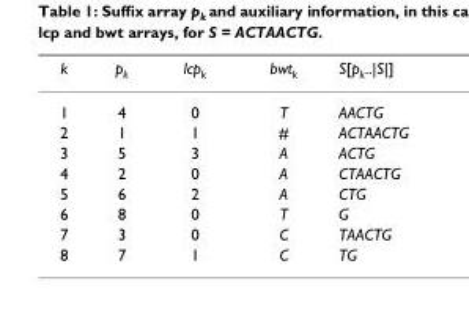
<table><thead><tr><td>k</td><td>p<sub>k</sub></td><td>lcp<sub>k</sub></td><td>bwt<sub>k</sub></td><td>S[p<sub>k</sub>..|S|]</td></tr></thead><tbody><tr><td>1</td><td>4</td><td>0</td><td>T</td><td>AACTG</td></tr><tr><td>2</td><td>1</td><td>1</td><td>#</td><td>ACTAACTG</td></tr><tr><td>3</td><td>5</td><td>3</td><td>A</td><td>ACTG</td></tr><tr><td>4</td><td>2</td><td>0</td><td>A</td><td>CTAACTG</td></tr><tr><td>5</td><td>6</td><td>2</td><td>A</td><td>CTG</td></tr><tr><td>6</td><td>8</td><td>0</td><td>T</td><td>G</td></tr><tr><td>7</td><td>3</td><td>0</td><td>C</td><td>TAACTG</td></tr><tr><td>8</td><td>7</td><td>1</td><td>C</td><td>TG</td></tr></tbody></table>